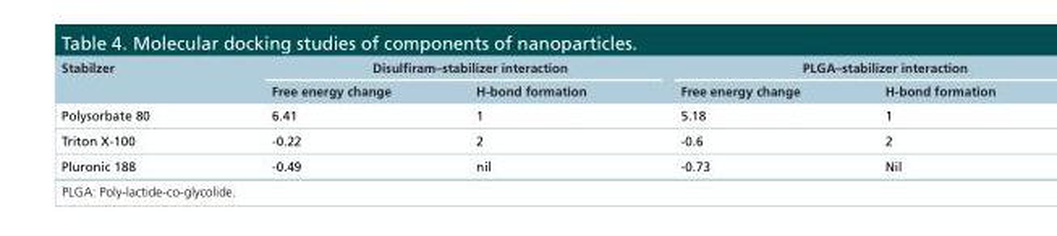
<table><thead><tr><td rowspan="2">Stabilzer</td><td colspan="2">Disulfiram–stabilizer interaction</td><td colspan="2">PLGA–stabilizer interaction</td></tr><tr><td>Free energy change</td><td>H-bond formation</td><td>Free energy change</td><td>H-bond formation</td></tr></thead><tbody><tr><td>Polysorbate 80</td><td>6.41</td><td>1</td><td>5.18</td><td>1</td></tr><tr><td>Triton X-100</td><td>-0.22</td><td>2</td><td>-0.6</td><td>2</td></tr><tr><td>Pluronic 188</td><td>-0.49</td><td>nil</td><td>-0.73</td><td>Nil</td></tr></tbody></table>